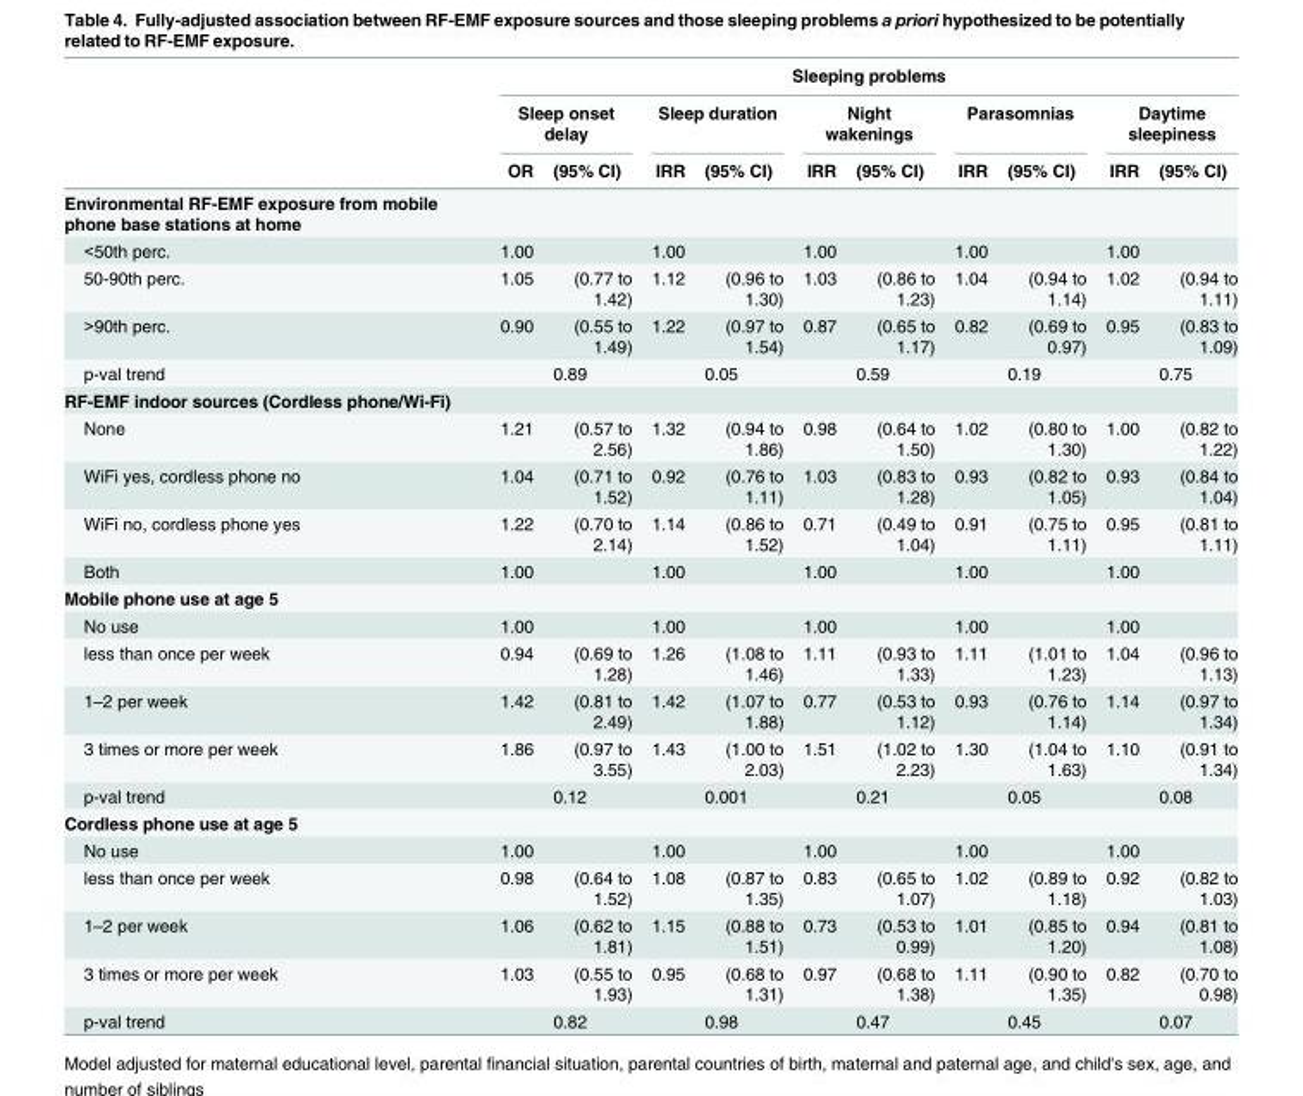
<table><thead><tr><td rowspan="3"></td><td colspan="10">Sleeping problems</td></tr><tr><td colspan="2">Sleep onset delay</td><td colspan="2">Sleep duration</td><td colspan="2">Night wakenings</td><td colspan="2">Parasomnias</td><td colspan="2">Daytime sleepiness</td></tr><tr><td>OR</td><td>(95% CI)</td><td>IRR</td><td>(95% CI)</td><td>IRR</td><td>(95% CI)</td><td>IRR</td><td>(95% CI)</td><td>IRR</td><td>(95% CI)</td></tr></thead><tbody><tr><td colspan="11">Environmental RF-EMF exposure from mobile phone base stations at home</td></tr><tr><td>&lt;50th perc.</td><td>1.00</td><td></td><td>1.00</td><td></td><td>1.00</td><td></td><td>1.00</td><td></td><td>1.00</td><td></td></tr><tr><td>50-90th perc.</td><td>1.05</td><td>(0.77 to 1.42)</td><td>1.12</td><td>(0.96 to 1.30)</td><td>1.03</td><td>(0.86 to 1.23)</td><td>1.04</td><td>(0.94 to 1.14)</td><td>1.02</td><td>(0.94 to 1.11)</td></tr><tr><td>&gt;90th perc.</td><td>0.90</td><td>(0.55 to 1.49)</td><td>1.22</td><td>(0.97 to 1.54)</td><td>0.87</td><td>(0.65 to 1.17)</td><td>0.82</td><td>(0.69 to 0.97)</td><td>0.95</td><td>(0.83 to 1.09)</td></tr><tr><td>p-val trend</td><td></td><td>0.89</td><td></td><td>0.05</td><td></td><td>0.59</td><td></td><td>0.19</td><td></td><td>0.75</td></tr><tr><td colspan="11">RF-EMF indoor sources (Cordless phone/Wi-Fi)</td></tr><tr><td>None</td><td>1.21</td><td>(0.57 to 2.56)</td><td>1.32</td><td>(0.94 to 1.86)</td><td>0.98</td><td>(0.64 to 1.50)</td><td>1.02</td><td>(0.80 to 1.30)</td><td>1.00</td><td>(0.82 to 1.22)</td></tr><tr><td>WiFi yes, cordless phone no</td><td>1.04</td><td>(0.71 to 1.52)</td><td>0.92</td><td>(0.76 to 1.11)</td><td>1.03</td><td>(0.83 to 1.28)</td><td>0.93</td><td>(0.82 to 1.05)</td><td>0.93</td><td>(0.84 to 1.04)</td></tr><tr><td>WiFi no, cordless phone yes</td><td>1.22</td><td>(0.70 to 2.14)</td><td>1.14</td><td>(0.86 to 1.52)</td><td>0.71</td><td>(0.49 to 1.04)</td><td>0.91</td><td>(0.75 to 1.11)</td><td>0.95</td><td>(0.81 to 1.11)</td></tr><tr><td>Both</td><td>1.00</td><td></td><td>1.00</td><td></td><td>1.00</td><td></td><td>1.00</td><td></td><td>1.00</td><td></td></tr><tr><td colspan="11">Mobile phone use at age 5</td></tr><tr><td>No use</td><td>1.00</td><td></td><td>1.00</td><td></td><td>1.00</td><td></td><td>1.00</td><td></td><td>1.00</td><td></td></tr><tr><td>less than once per week</td><td>0.94</td><td>(0.69 to 1.28)</td><td>1.26</td><td>(1.08 to 1.46)</td><td>1.11</td><td>(0.93 to 1.33)</td><td>1.11</td><td>(1.01 to 1.23)</td><td>1.04</td><td>(0.96 to 1.13)</td></tr><tr><td>1–2 per week</td><td>1.42</td><td>(0.81 to 2.49)</td><td>1.42</td><td>(1.07 to 1.88)</td><td>0.77</td><td>(0.53 to 1.12)</td><td>0.93</td><td>(0.76 to 1.14)</td><td>1.14</td><td>(0.97 to 1.34)</td></tr><tr><td>3 times or more per week</td><td>1.86</td><td>(0.97 to 3.55)</td><td>1.43</td><td>(1.00 to 2.03)</td><td>1.51</td><td>(1.02 to 2.23)</td><td>1.30</td><td>(1.04 to 1.63)</td><td>1.10</td><td>(0.91 to 1.34)</td></tr><tr><td>p-val trend</td><td></td><td>0.12</td><td></td><td>0.001</td><td></td><td>0.21</td><td></td><td>0.05</td><td></td><td>0.08</td></tr><tr><td colspan="11">Cordless phone use at age 5</td></tr><tr><td>No use</td><td>1.00</td><td></td><td>1.00</td><td></td><td>1.00</td><td></td><td>1.00</td><td></td><td>1.00</td><td></td></tr><tr><td>less than once per week</td><td>0.98</td><td>(0.64 to 1.52)</td><td>1.08</td><td>(0.87 to 1.35)</td><td>0.83</td><td>(0.65 to 1.07)</td><td>1.02</td><td>(0.89 to 1.18)</td><td>0.92</td><td>(0.82 to 1.03)</td></tr><tr><td>1–2 per week</td><td>1.06</td><td>(0.62 to 1.81)</td><td>1.15</td><td>(0.88 to 1.51)</td><td>0.73</td><td>(0.53 to 0.99)</td><td>1.01</td><td>(0.85 to 1.20)</td><td>0.94</td><td>(0.81 to 1.08)</td></tr><tr><td>3 times or more per week</td><td>1.03</td><td>(0.55 to 1.93)</td><td>0.95</td><td>(0.68 to 1.31)</td><td>0.97</td><td>(0.68 to 1.38)</td><td>1.11</td><td>(0.90 to 1.35)</td><td>0.82</td><td>(0.70 to 0.98)</td></tr><tr><td>p-val trend</td><td></td><td>0.82</td><td></td><td>0.98</td><td></td><td>0.47</td><td></td><td>0.45</td><td></td><td>0.07</td></tr></tbody></table>